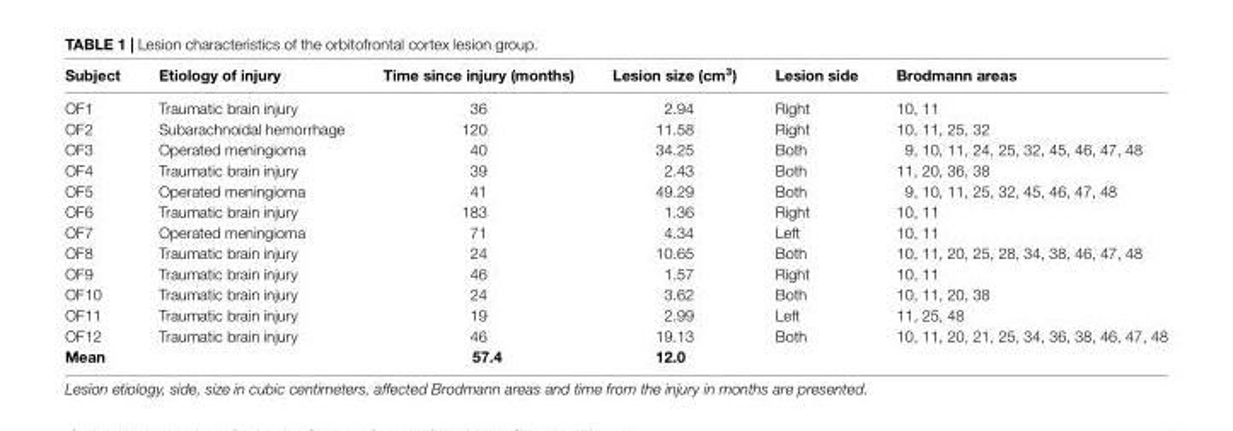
<table><thead><tr><td>Subject</td><td>Etiology of injury</td><td>Time since injury (months)</td><td>Lesion size (cm<sup>3</sup>)</td><td>Lesion side</td><td>Brodmann areas</td></tr></thead><tbody><tr><td>OF1</td><td>Traumatic brain injury</td><td>36</td><td>2.94</td><td>Right</td><td>10, 11</td></tr><tr><td>OF2</td><td>Subarachnoidal hemorrhage</td><td>120</td><td>11.58</td><td>Right</td><td>10, 11, 25, 32</td></tr><tr><td>OF3</td><td>Operated meningioma</td><td>40</td><td>34.25</td><td>Both</td><td>9, 10, 11, 24, 25, 32, 45, 46, 47, 48</td></tr><tr><td>OF4</td><td>Traumatic brain injury</td><td>39</td><td>2.43</td><td>Both</td><td>11, 20, 36, 38</td></tr><tr><td>OF5</td><td>Operated meningioma</td><td>41</td><td>49.29</td><td>Both</td><td>9, 10, 11, 25, 32, 45, 46, 47, 48</td></tr><tr><td>OF6</td><td>Traumatic brain injury</td><td>183</td><td>1.36</td><td>Right</td><td>10, 11</td></tr><tr><td>OF7</td><td>Operated meningioma</td><td>71</td><td>4.34</td><td>Left</td><td>10, 11</td></tr><tr><td>OF8</td><td>Traumatic brain injury</td><td>24</td><td>10.65</td><td>Both</td><td>10, 11, 20, 25, 28, 34, 38, 46, 47, 48</td></tr><tr><td>OF9</td><td>Traumatic brain injury</td><td>46</td><td>1.57</td><td>Right</td><td>10, 11</td></tr><tr><td>OF10</td><td>Traumatic brain injury</td><td>24</td><td>3.62</td><td>Both</td><td>10, 11, 20, 38</td></tr><tr><td>OF11</td><td>Traumatic brain injury</td><td>19</td><td>2.99</td><td>Left</td><td>11, 25, 48</td></tr><tr><td>OF12</td><td>Traumatic brain injury</td><td>46</td><td>19.13</td><td>Both</td><td>10, 11, 20, 21, 25, 34, 36, 38, 46, 47, 48</td></tr><tr><td>Mean</td><td></td><td>57.4</td><td>12.0</td><td></td><td></td></tr></tbody></table>